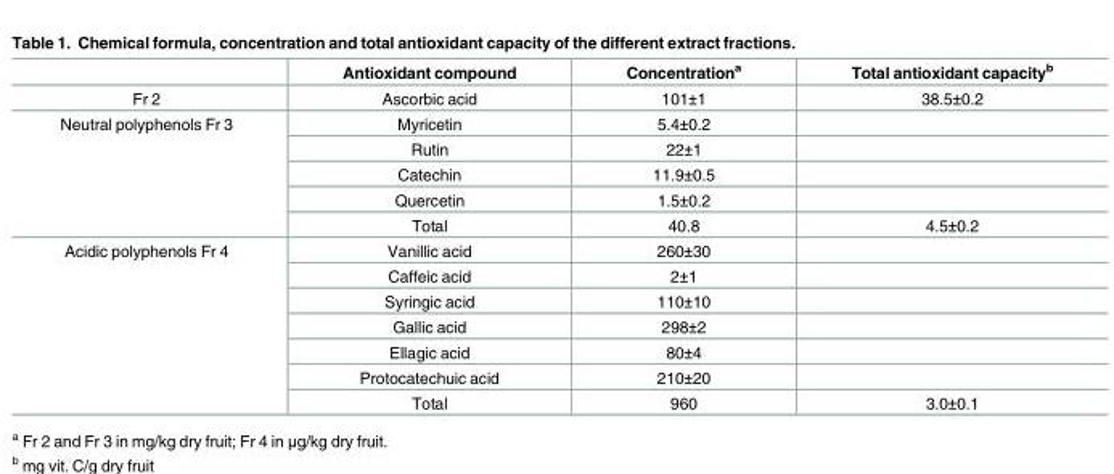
<table><thead><tr><td></td><td>Antioxidant compound</td><td>Concentration<sup>a</sup></td><td>Total antioxidant capacity<sup>b</sup></td></tr></thead><tbody><tr><td>Fr 2</td><td>Ascorbic acid</td><td>101±1</td><td>38.5±0.2</td></tr><tr><td rowspan="5">Neutral polyphenols Fr 3</td><td>Myricetin</td><td>5.4±0.2</td><td></td></tr><tr><td>Rutin</td><td>22±1</td><td></td></tr><tr><td>Catechin</td><td>11.9±0.5</td><td></td></tr><tr><td>Quercetin</td><td>1.5±0.2</td><td></td></tr><tr><td>Total</td><td>40.8</td><td>4.5±0.2</td></tr><tr><td rowspan="7">Acidic polyphenols Fr 4</td><td>Vanillic acid</td><td>260±30</td><td></td></tr><tr><td>Caffeic acid</td><td>2±1</td><td></td></tr><tr><td>Syringic acid</td><td>110±10</td><td></td></tr><tr><td>Gallic acid</td><td>298±2</td><td></td></tr><tr><td>Ellagic acid</td><td>80±4</td><td></td></tr><tr><td>Protocatechuic acid</td><td>210±20</td><td></td></tr><tr><td>Total</td><td>960</td><td>3.0±0.1</td></tr></tbody></table>